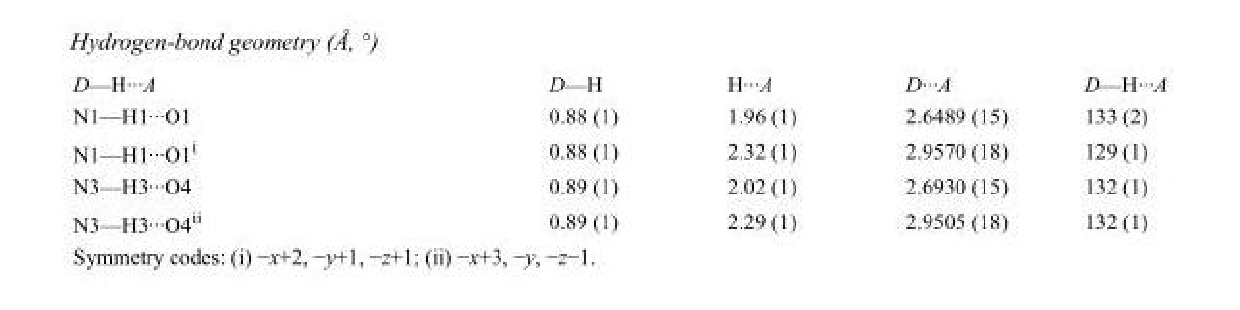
<table><tbody><tr><td>D—H···A</td><td>D—H</td><td>H···A</td><td>D···A</td><td>D—H···A</td></tr><tr><td>N1—H1···O1</td><td>0.88 (1)</td><td>1.96 (1)</td><td>2.6489 (15)</td><td>133 (2)</td></tr><tr><td>N1—H1···O1<sup>i</sup></td><td>0.88 (1)</td><td>2.32 (1)</td><td>2.9570 (18)</td><td>129 (1)</td></tr><tr><td>N3—H3···O4</td><td>0.89 (1)</td><td>2.02 (1)</td><td>2.6930 (15)</td><td>132 (1)</td></tr><tr><td>N3—H3···O4<sup>ii</sup></td><td>0.89 (1)</td><td>2.29 (1)</td><td>2.9505 (18)</td><td>132 (1)</td></tr></tbody></table>